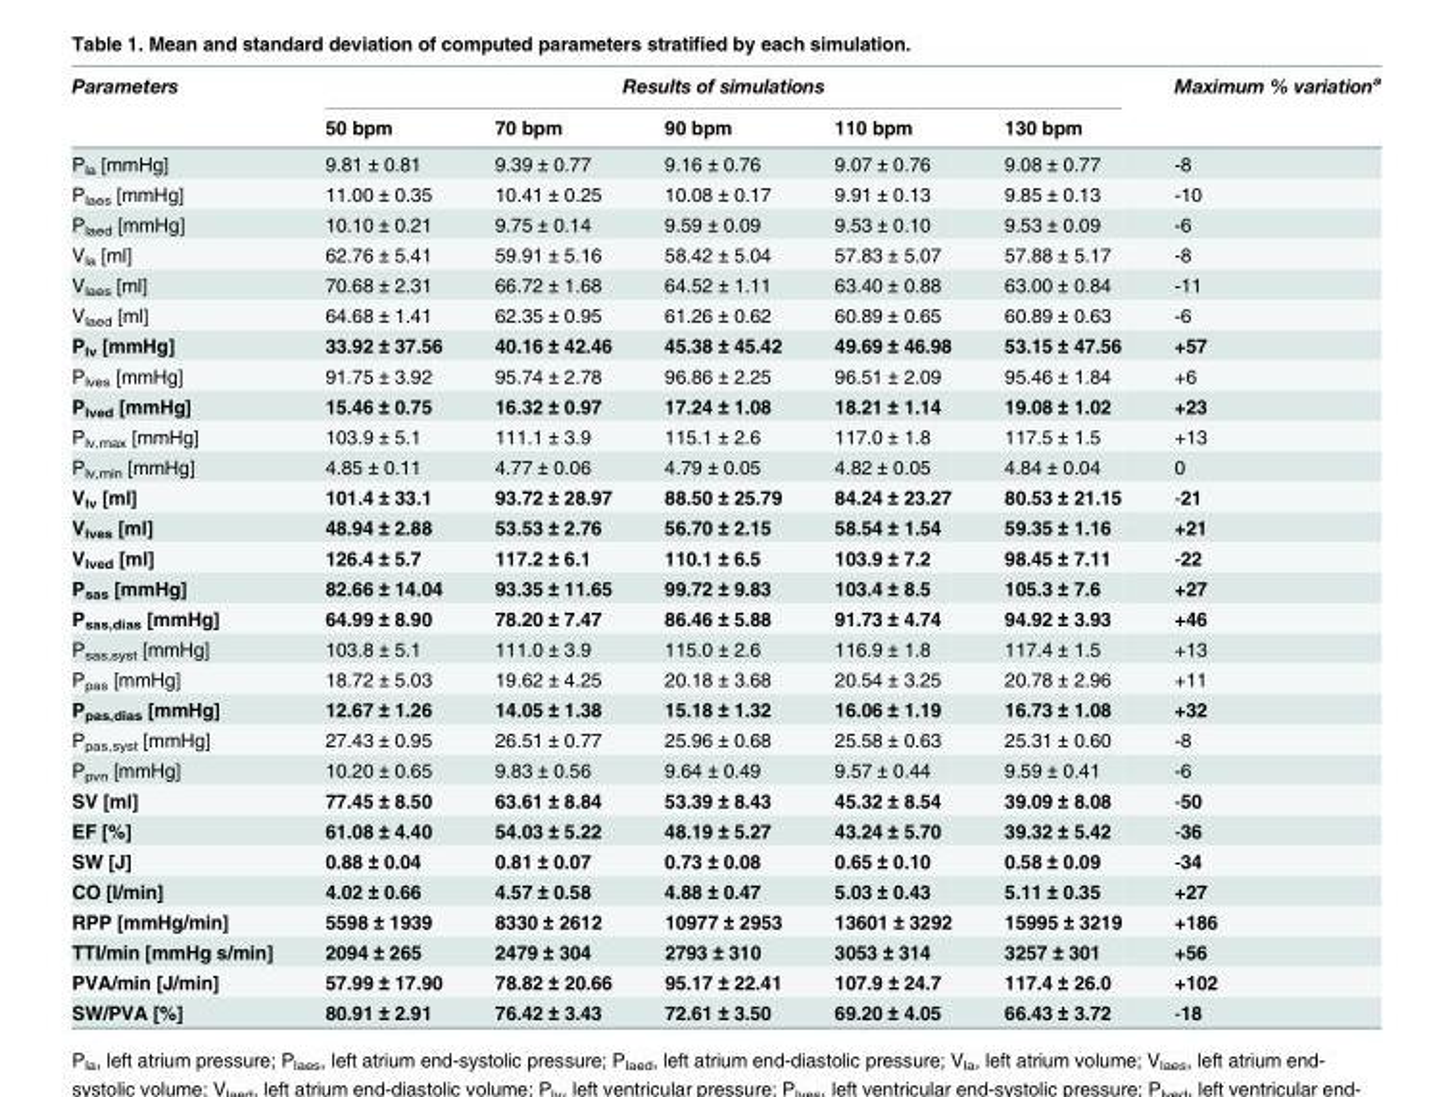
<table><thead><tr><td rowspan="2">Parameters</td><td colspan="5">Results of simulations</td><td rowspan="2">Maximum % variation<sup>a</sup></td></tr><tr><td>50 bpm</td><td>70 bpm</td><td>90 bpm</td><td>110 bpm</td><td>130 bpm</td></tr></thead><tbody><tr><td>P<sub>la</sub> [mmHg]</td><td>9.81 ± 0.81</td><td>9.39 ± 0.77</td><td>9.16 ± 0.76</td><td>9.07 ± 0.76</td><td>9.08 ± 0.77</td><td>-8</td></tr><tr><td>P<sub>laes</sub> [mmHg]</td><td>11.00 ± 0.35</td><td>10.41 ± 0.25</td><td>10.08 ± 0.17</td><td>9.91 ± 0.13</td><td>9.85 ± 0.13</td><td>-10</td></tr><tr><td>P<sub>laed</sub> [mmHg]</td><td>10.10 ± 0.21</td><td>9.75 ± 0.14</td><td>9.59 ± 0.09</td><td>9.53 ± 0.10</td><td>9.53 ± 0.09</td><td>-6</td></tr><tr><td>V<sub>la</sub> [ml]</td><td>62.76 ± 5.41</td><td>59.91 ± 5.16</td><td>58.42 ± 5.04</td><td>57.83 ± 5.07</td><td>57.88 ± 5.17</td><td>-8</td></tr><tr><td>V<sub>laes</sub> [ml]</td><td>70.68 ± 2.31</td><td>66.72 ± 1.68</td><td>64.52 ± 1.11</td><td>63.40 ± 0.88</td><td>63.00 ± 0.84</td><td>-11</td></tr><tr><td>V<sub>laed</sub> [ml]</td><td>64.68 ± 1.41</td><td>62.35 ± 0.95</td><td>61.26 ± 0.62</td><td>60.89 ± 0.65</td><td>60.89 ± 0.63</td><td>-6</td></tr><tr><td>P<sub>lv</sub> [mmHg]</td><td>33.92 ± 37.56</td><td>40.16 ± 42.46</td><td>45.38 ± 45.42</td><td>49.69 ± 46.98</td><td>53.15 ± 47.56</td><td>+57</td></tr><tr><td>P<sub>lves</sub> [mmHg]</td><td>91.75 ± 3.92</td><td>95.74 ± 2.78</td><td>96.86 ± 2.25</td><td>96.51 ± 2.09</td><td>95.46 ± 1.84</td><td>+6</td></tr><tr><td>P<sub>lved</sub> [mmHg]</td><td>15.46 ± 0.75</td><td>16.32 ± 0.97</td><td>17.24 ± 1.08</td><td>18.21 ± 1.14</td><td>19.08 ± 1.02</td><td>+23</td></tr><tr><td>P<sub>lv,max</sub> [mmHg]</td><td>103.9 ± 5.1</td><td>111.1 ± 3.9</td><td>115.1 ± 2.6</td><td>117.0 ± 1.8</td><td>117.5 ± 1.5</td><td>+13</td></tr><tr><td>P<sub>lv,min</sub> [mmHg]</td><td>4.85 ± 0.11</td><td>4.77 ± 0.06</td><td>4.79 ± 0.05</td><td>4.82 ± 0.05</td><td>4.84 ± 0.04</td><td>0</td></tr><tr><td>V<sub>lv</sub> [ml]</td><td>101.4 ± 33.1</td><td>93.72 ± 28.97</td><td>88.50 ± 25.79</td><td>84.24 ± 23.27</td><td>80.53 ± 21.15</td><td>-21</td></tr><tr><td>V<sub>lves</sub> [ml]</td><td>48.94 ± 2.88</td><td>53.53 ± 2.76</td><td>56.70 ± 2.15</td><td>58.54 ± 1.54</td><td>59.35 ± 1.16</td><td>+21</td></tr><tr><td>V<sub>lved</sub> [ml]</td><td>126.4 ± 5.7</td><td>117.2 ± 6.1</td><td>110.1 ± 6.5</td><td>103.9 ± 7.2</td><td>98.45 ± 7.11</td><td>-22</td></tr><tr><td>P<sub>sas</sub> [mmHg]</td><td>82.66 ± 14.04</td><td>93.35 ± 11.65</td><td>99.72 ± 9.83</td><td>103.4 ± 8.5</td><td>105.3 ± 7.6</td><td>+27</td></tr><tr><td>P<sub>sas,dias</sub> [mmHg]</td><td>64.99 ± 8.90</td><td>78.20 ± 7.47</td><td>86.46 ± 5.88</td><td>91.73 ± 4.74</td><td>94.92 ± 3.93</td><td>+46</td></tr><tr><td>P<sub>sas,syst</sub> [mmHg]</td><td>103.8 ± 5.1</td><td>111.0 ± 3.9</td><td>115.0 ± 2.6</td><td>116.9 ± 1.8</td><td>117.4 ± 1.5</td><td>+13</td></tr><tr><td>P<sub>pas</sub> [mmHg]</td><td>18.72 ± 5.03</td><td>19.62 ± 4.25</td><td>20.18 ± 3.68</td><td>20.54 ± 3.25</td><td>20.78 ± 2.96</td><td>+11</td></tr><tr><td>P<sub>pas,dias</sub> [mmHg]</td><td>12.67 ± 1.26</td><td>14.05 ± 1.38</td><td>15.18 ± 1.32</td><td>16.06 ± 1.19</td><td>16.73 ± 1.08</td><td>+32</td></tr><tr><td>P<sub>pas,syst</sub> [mmHg]</td><td>27.43 ± 0.95</td><td>26.51 ± 0.77</td><td>25.96 ± 0.68</td><td>25.58 ± 0.63</td><td>25.31 ± 0.60</td><td>-8</td></tr><tr><td>P<sub>pvn</sub> [mmHg]</td><td>10.20 ± 0.65</td><td>9.83 ± 0.56</td><td>9.64 ± 0.49</td><td>9.57 ± 0.44</td><td>9.59 ± 0.41</td><td>-6</td></tr><tr><td>SV [ml]</td><td>77.45 ± 8.50</td><td>63.61 ± 8.84</td><td>53.39 ± 8.43</td><td>45.32 ± 8.54</td><td>39.09 ± 8.08</td><td>-50</td></tr><tr><td>EF [%]</td><td>61.08 ± 4.40</td><td>54.03 ± 5.22</td><td>48.19 ± 5.27</td><td>43.24 ± 5.70</td><td>39.32 ± 5.42</td><td>-36</td></tr><tr><td>SW [J]</td><td>0.88 ± 0.04</td><td>0.81 ± 0.07</td><td>0.73 ± 0.08</td><td>0.65 ± 0.10</td><td>0.58 ± 0.09</td><td>-34</td></tr><tr><td>CO [l/min]</td><td>4.02 ± 0.66</td><td>4.57 ± 0.58</td><td>4.88 ± 0.47</td><td>5.03 ± 0.43</td><td>5.11 ± 0.35</td><td>+27</td></tr><tr><td>RPP [mmHg/min]</td><td>5598 ± 1939</td><td>8330 ± 2612</td><td>10977 ± 2953</td><td>13601 ± 3292</td><td>15995 ± 3219</td><td>+186</td></tr><tr><td>TTI/min [mmHg s/min]</td><td>2094 ± 265</td><td>2479 ± 304</td><td>2793 ± 310</td><td>3053 ± 314</td><td>3257 ± 301</td><td>+56</td></tr><tr><td>PVA/min [J/min]</td><td>57.99 ± 17.90</td><td>78.82 ± 20.66</td><td>95.17 ± 22.41</td><td>107.9 ± 24.7</td><td>117.4 ± 26.0</td><td>+102</td></tr><tr><td>SW/PVA [%]</td><td>80.91 ± 2.91</td><td>76.42 ± 3.43</td><td>72.61 ± 3.50</td><td>69.20 ± 4.05</td><td>66.43 ± 3.72</td><td>-18</td></tr></tbody></table>